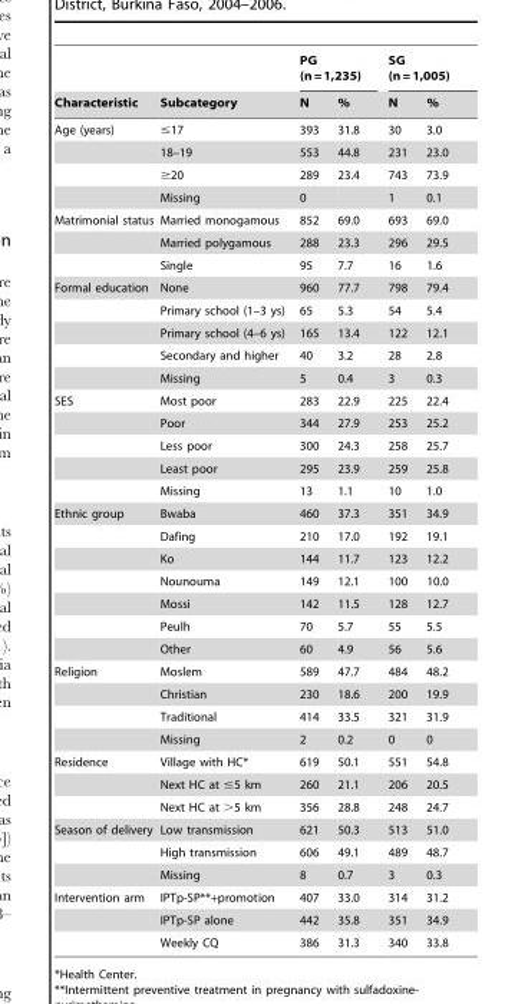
<table><thead><tr><td rowspan="2">Characteristic</td><td rowspan="2">Subcategory</td><td colspan="2">PG (n = 1,235)</td><td colspan="2">SG (n = 1,005)</td></tr><tr><td>N</td><td>%</td><td>N</td><td>%</td></tr></thead><tbody><tr><td rowspan="4">Age (years)</td><td>≤17</td><td>393</td><td>31.8</td><td>30</td><td>3.0</td></tr><tr><td>18–19</td><td>553</td><td>44.8</td><td>231</td><td>23.0</td></tr><tr><td>≥20</td><td>289</td><td>23.4</td><td>743</td><td>73.9</td></tr><tr><td>Missing</td><td>0</td><td></td><td>1</td><td>0.1</td></tr><tr><td rowspan="3">Matrimonial status</td><td>Married monogamous</td><td>852</td><td>69.0</td><td>693</td><td>69.0</td></tr><tr><td>Married polygamous</td><td>288</td><td>23.3</td><td>296</td><td>29.5</td></tr><tr><td>Single</td><td>95</td><td>7.7</td><td>16</td><td>1.6</td></tr><tr><td rowspan="5">Formal education</td><td>None</td><td>960</td><td>77.7</td><td>798</td><td>79.4</td></tr><tr><td>Primary school (1–3 ys)</td><td>65</td><td>5.3</td><td>54</td><td>5.4</td></tr><tr><td>Primary school (4–6 ys)</td><td>165</td><td>13.4</td><td>122</td><td>12.1</td></tr><tr><td>Secondary and higher</td><td>40</td><td>3.2</td><td>28</td><td>2.8</td></tr><tr><td>Missing</td><td>5</td><td>0.4</td><td>3</td><td>0.3</td></tr><tr><td rowspan="5">SES</td><td>Most poor</td><td>283</td><td>22.9</td><td>225</td><td>22.4</td></tr><tr><td>Poor</td><td>344</td><td>27.9</td><td>253</td><td>25.2</td></tr><tr><td>Less poor</td><td>300</td><td>24.3</td><td>258</td><td>25.7</td></tr><tr><td>Least poor</td><td>295</td><td>23.9</td><td>259</td><td>25.8</td></tr><tr><td>Missing</td><td>13</td><td>1.1</td><td>10</td><td>1.0</td></tr><tr><td rowspan="7">Ethnic group</td><td>Bwaba</td><td>460</td><td>37.3</td><td>351</td><td>34.9</td></tr><tr><td>Dafing</td><td>210</td><td>17.0</td><td>192</td><td>19.1</td></tr><tr><td>Ko</td><td>144</td><td>11.7</td><td>123</td><td>12.2</td></tr><tr><td>Nounouma</td><td>149</td><td>12.1</td><td>100</td><td>10.0</td></tr><tr><td>Mossi</td><td>142</td><td>11.5</td><td>128</td><td>12.7</td></tr><tr><td>Peulh</td><td>70</td><td>5.7</td><td>55</td><td>5.5</td></tr><tr><td>Other</td><td>60</td><td>4.9</td><td>56</td><td>5.6</td></tr><tr><td rowspan="4">Religion</td><td>Moslem</td><td>589</td><td>47.7</td><td>484</td><td>48.2</td></tr><tr><td>Christian</td><td>230</td><td>18.6</td><td>200</td><td>19.9</td></tr><tr><td>Traditional</td><td>414</td><td>33.5</td><td>321</td><td>31.9</td></tr><tr><td>Missing</td><td>2</td><td>0.2</td><td>0</td><td>0</td></tr><tr><td rowspan="3">Residence</td><td>Village with HC*</td><td>619</td><td>50.1</td><td>551</td><td>54.8</td></tr><tr><td>Next HC at ≤5 km</td><td>260</td><td>21.1</td><td>206</td><td>20.5</td></tr><tr><td>Next HC at &gt;5 km</td><td>356</td><td>28.8</td><td>248</td><td>24.7</td></tr><tr><td rowspan="3">Season of delivery</td><td>Low transmission</td><td>621</td><td>50.3</td><td>513</td><td>51.0</td></tr><tr><td>High transmission</td><td>606</td><td>49.1</td><td>489</td><td>48.7</td></tr><tr><td>Missing</td><td>8</td><td>0.7</td><td>3</td><td>0.3</td></tr><tr><td rowspan="3">Intervention arm</td><td>IPTp-SP**+promotion</td><td>407</td><td>33.0</td><td>314</td><td>31.2</td></tr><tr><td>IPTp-SP alone</td><td>442</td><td>35.8</td><td>351</td><td>34.9</td></tr><tr><td>Weekly CQ</td><td>386</td><td>31.3</td><td>340</td><td>33.8</td></tr></tbody></table>